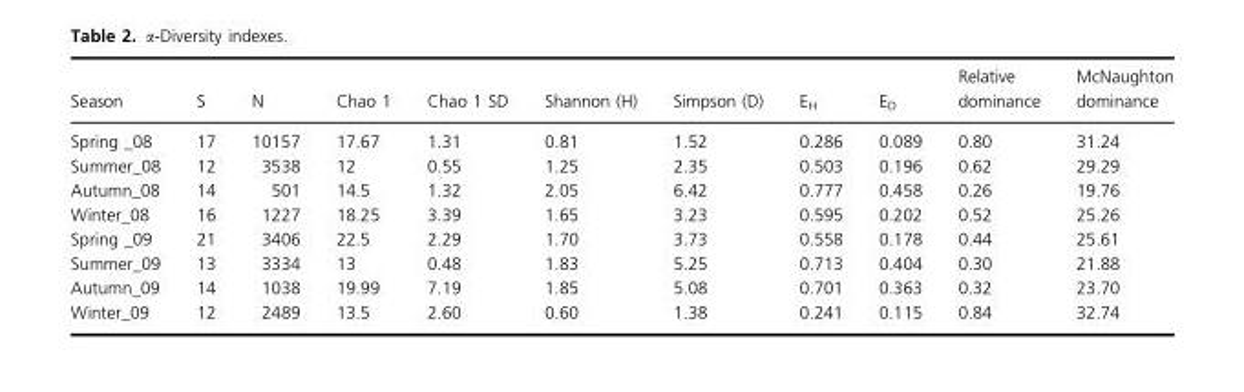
<table><thead><tr><td>Season</td><td>S</td><td>N</td><td>Chao 1</td><td>Chao 1 SD</td><td>Shannon (H)</td><td>Simpson (D)</td><td>E<sub>H</sub></td><td>E<sub>D</sub></td><td>Relative dominance</td><td>McNaughton dominance</td></tr></thead><tbody><tr><td>Spring _08</td><td>17</td><td>10157</td><td>17.67</td><td>1.31</td><td>0.81</td><td>1.52</td><td>0.286</td><td>0.089</td><td>0.80</td><td>31.24</td></tr><tr><td>Summer_08</td><td>12</td><td>3538</td><td>12</td><td>0.55</td><td>1.25</td><td>2.35</td><td>0.503</td><td>0.196</td><td>0.62</td><td>29.29</td></tr><tr><td>Autumn_08</td><td>14</td><td>501</td><td>14.5</td><td>1.32</td><td>2.05</td><td>6.42</td><td>0.777</td><td>0.458</td><td>0.26</td><td>19.76</td></tr><tr><td>Winter_08</td><td>16</td><td>1227</td><td>18.25</td><td>3.39</td><td>1.65</td><td>3.23</td><td>0.595</td><td>0.202</td><td>0.52</td><td>25.26</td></tr><tr><td>Spring _09</td><td>21</td><td>3406</td><td>22.5</td><td>2.29</td><td>1.70</td><td>3.73</td><td>0.558</td><td>0.178</td><td>0.44</td><td>25.61</td></tr><tr><td>Summer_09</td><td>13</td><td>3334</td><td>13</td><td>0.48</td><td>1.83</td><td>5.25</td><td>0.713</td><td>0.404</td><td>0.30</td><td>21.88</td></tr><tr><td>Autumn_09</td><td>14</td><td>1038</td><td>19.99</td><td>7.19</td><td>1.85</td><td>5.08</td><td>0.701</td><td>0.363</td><td>0.32</td><td>23.70</td></tr><tr><td>Winter_09</td><td>12</td><td>2489</td><td>13.5</td><td>2.60</td><td>0.60</td><td>1.38</td><td>0.241</td><td>0.115</td><td>0.84</td><td>32.74</td></tr></tbody></table>